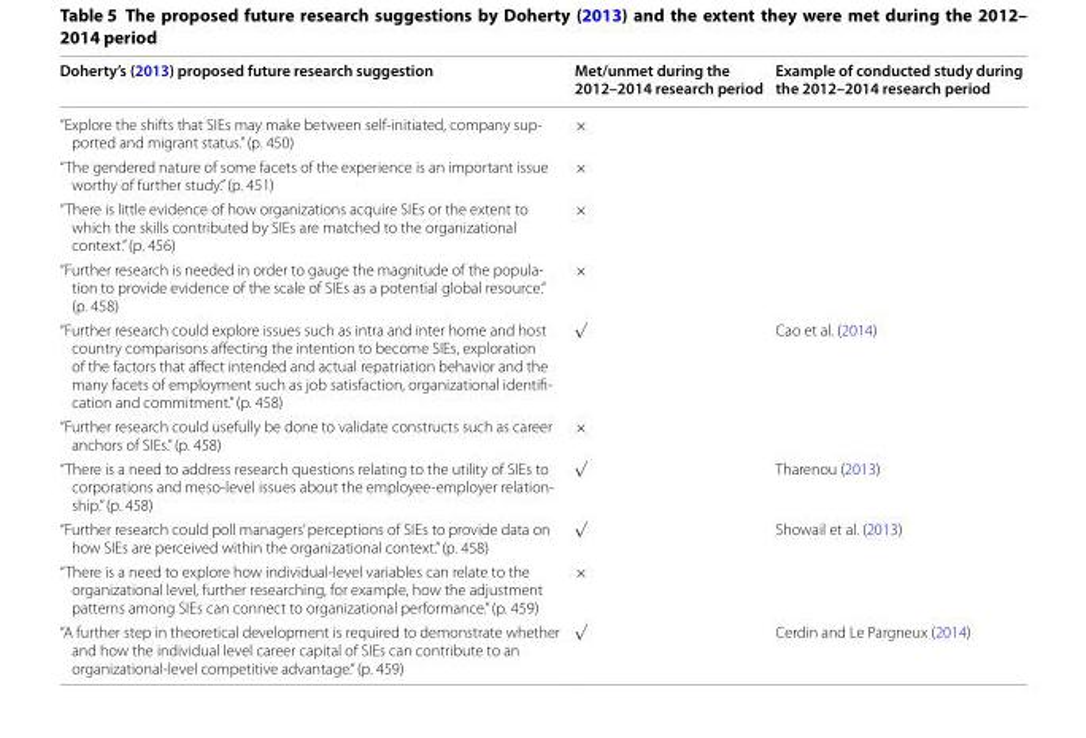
<table><thead><tr><td>Doherty’s (2013) proposed future research suggestion</td><td>Met/unmet during the 2012–2014 research period</td><td>Example of conducted study during the 2012–2014 research period</td></tr></thead><tbody><tr><td>“Explore the shifts that SIEs may make between self-initiated, company sup- ported and migrant status.” (p. 450)</td><td>×</td><td></td></tr><tr><td>“The gendered nature of some facets of the experience is an important issue worthy of further study.” (p. 451)</td><td>×</td><td></td></tr><tr><td>“There is little evidence of how organizations acquire SIEs or the extent to which the skills contributed by SIEs are matched to the organizational context.” (p. 456)</td><td>×</td><td></td></tr><tr><td>“Further research is needed in order to gauge the magnitude of the popula- tion to provide evidence of the scale of SIEs as a potential global resource.” (p. 458)</td><td>×</td><td></td></tr><tr><td>“Further research could explore issues such as intra and inter home and host country comparisons affecting the intention to become SIEs, exploration of the factors that affect intended and actual repatriation behavior and the many facets of employment such as job satisfaction, organizational identifi- cation and commitment.” (p. 458)</td><td>√</td><td>Cao et al. (2014)</td></tr><tr><td>“Further research could usefully be done to validate constructs such as career anchors of SIEs.” (p. 458)</td><td>×</td><td></td></tr><tr><td>“There is a need to address research questions relating to the utility of SIEs to corporations and meso-level issues about the employee-employer relation- ship.” (p. 458)</td><td>√</td><td>Tharenou (2013)</td></tr><tr><td>“Further research could poll managers’ perceptions of SIEs to provide data on how SIEs are perceived within the organizational context.” (p. 458)</td><td>√</td><td>Showail et al. (2013)</td></tr><tr><td>“There is a need to explore how individual-level variables can relate to the organizational level, further researching, for example, how the adjustment patterns among SIEs can connect to organizational performance.” (p. 459)</td><td>×</td><td></td></tr><tr><td>“A further step in theoretical development is required to demonstrate whether and how the individual level career capital of SIEs can contribute to an organizational-level competitive advantage.” (p. 459)</td><td>√</td><td>Cerdin and Le Pargneux (2014)</td></tr></tbody></table>